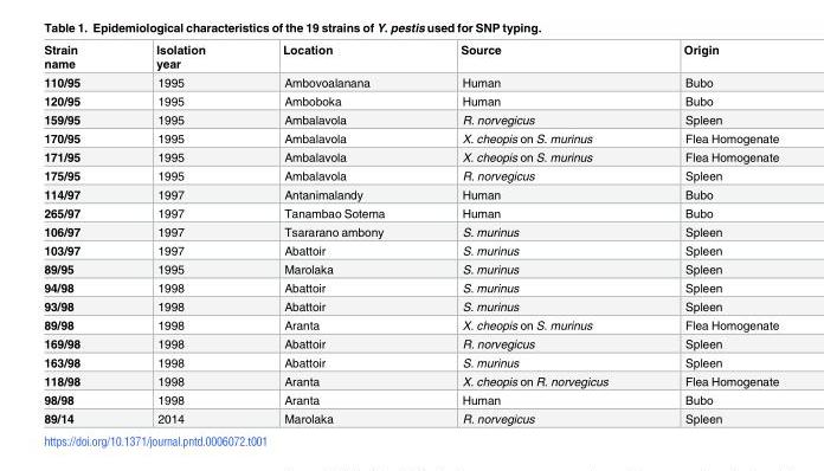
<table><thead><tr><td>Strain name</td><td>Isolation year</td><td>Location</td><td>Source</td><td>Origin</td></tr></thead><tbody><tr><td>110/95</td><td>1995</td><td>Ambovoalanana</td><td>Human</td><td>Bubo</td></tr><tr><td>120/95</td><td>1995</td><td>Amboboka</td><td>Human</td><td>Bubo</td></tr><tr><td>159/95</td><td>1995</td><td>Ambalavola</td><td>R. norvegicus</td><td>Spleen</td></tr><tr><td>170/95</td><td>1995</td><td>Ambalavola</td><td>X. cheopis on S. murinus</td><td>Flea Homogenate</td></tr><tr><td>171/95</td><td>1995</td><td>Ambalavola</td><td>X. cheopis on S. murinus</td><td>Flea Homogenate</td></tr><tr><td>175/95</td><td>1995</td><td>Ambalavola</td><td>R. norvegicus</td><td>Spleen</td></tr><tr><td>114/97</td><td>1997</td><td>Antanimalandy</td><td>Human</td><td>Bubo</td></tr><tr><td>265/97</td><td>1997</td><td>Tanambao Sotema</td><td>Human</td><td>Bubo</td></tr><tr><td>106/97</td><td>1997</td><td>Tsararano ambony</td><td>S. murinus</td><td>Spleen</td></tr><tr><td>103/97</td><td>1997</td><td>Abattoir</td><td>S. murinus</td><td>Spleen</td></tr><tr><td>89/95</td><td>1995</td><td>Marolaka</td><td>S. murinus</td><td>Spleen</td></tr><tr><td>94/98</td><td>1998</td><td>Abattoir</td><td>S. murinus</td><td>Spleen</td></tr><tr><td>93/98</td><td>1998</td><td>Abattoir</td><td>S. murinus</td><td>Spleen</td></tr><tr><td>89/98</td><td>1998</td><td>Aranta</td><td>X. cheopis on S. murinus</td><td>Flea Homogenate</td></tr><tr><td>169/98</td><td>1998</td><td>Abattoir</td><td>R. norvegicus</td><td>Spleen</td></tr><tr><td>163/98</td><td>1998</td><td>Abattoir</td><td>S. murinus</td><td>Spleen</td></tr><tr><td>118/98</td><td>1998</td><td>Aranta</td><td>X. cheopis on R. norvegicus</td><td>Flea Homogenate</td></tr><tr><td>98/98</td><td>1998</td><td>Aranta</td><td>Human</td><td>Bubo</td></tr><tr><td>89/14</td><td>2014</td><td>Marolaka</td><td>R. norvegicus</td><td>Spleen</td></tr></tbody></table>